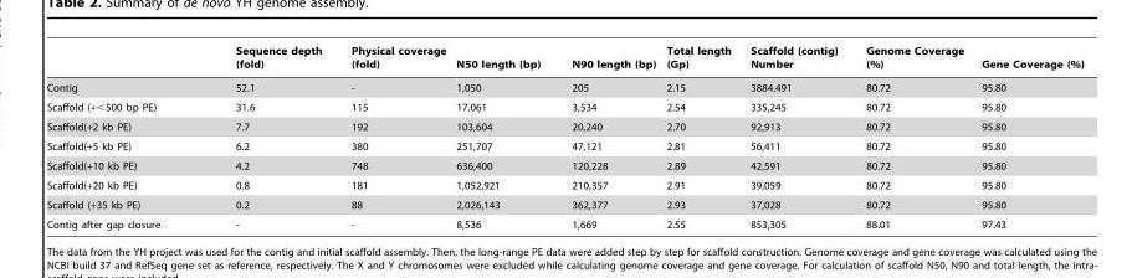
<table><thead><tr><td></td><td>Sequence depth (fold)</td><td>Physical coverage (fold)</td><td>N50 length (bp)</td><td>N90 length (bp)</td><td>Total length (Gp)</td><td>Scaffold (contig) Number</td><td>Genome Coverage (%)</td><td>Gene Coverage (%)</td></tr></thead><tbody><tr><td>Contig</td><td>52.1</td><td>-</td><td>1,050</td><td>205</td><td>2.15</td><td>3884.491</td><td>80.72</td><td>95.80</td></tr><tr><td>Scaffold (+&lt;500 bp PE)</td><td>31.6</td><td>115</td><td>17,061</td><td>3,534</td><td>2.54</td><td>335,245</td><td>80.72</td><td>95.80</td></tr><tr><td>Scaffold(+2 kb PE)</td><td>7.7</td><td>192</td><td>103,604</td><td>20,240</td><td>2.70</td><td>92,913</td><td>80.72</td><td>95.80</td></tr><tr><td>Scaffold(+5 kb PE)</td><td>6.2</td><td>380</td><td>251,707</td><td>47,121</td><td>2.81</td><td>56,411</td><td>80.72</td><td>95.80</td></tr><tr><td>Scaffold(+10 kb PE)</td><td>4.2</td><td>748</td><td>636,400</td><td>120,228</td><td>2.89</td><td>42,591</td><td>80.72</td><td>95.80</td></tr><tr><td>Scaffold(+20 kb PE)</td><td>0.8</td><td>181</td><td>1,052,921</td><td>210,357</td><td>2.91</td><td>39,059</td><td>80.72</td><td>95.80</td></tr><tr><td>Scaffold (+35 kb PE)</td><td>0.2</td><td>88</td><td>2,026,143</td><td>362,377</td><td>2.93</td><td>37,028</td><td>80.72</td><td>95.80</td></tr><tr><td>Contig after gap closure</td><td>-</td><td>-</td><td>8,536</td><td>1,669</td><td>2.55</td><td>853,305</td><td>88.01</td><td>97.43</td></tr></tbody></table>